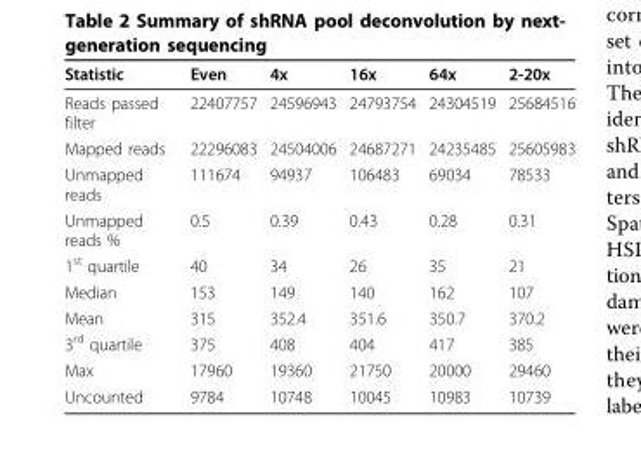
<table><thead><tr><td>Statistic</td><td>Even</td><td>4x</td><td>16x</td><td>64x</td><td>2-20x</td></tr></thead><tbody><tr><td>Reads passed filter</td><td>22407757</td><td>24596943</td><td>24793754</td><td>24304519</td><td>25684516</td></tr><tr><td>Mapped reads</td><td>22296083</td><td>24504006</td><td>24687271</td><td>24235485</td><td>25605983</td></tr><tr><td>Unmapped reads</td><td>111674</td><td>94937</td><td>106483</td><td>69034</td><td>78533</td></tr><tr><td>Unmapped reads %</td><td>0.5</td><td>0.39</td><td>0.43</td><td>0.28</td><td>0.31</td></tr><tr><td>1<sup>st</sup> quartile</td><td>40</td><td>34</td><td>26</td><td>35</td><td>21</td></tr><tr><td>Median</td><td>153</td><td>149</td><td>140</td><td>162</td><td>107</td></tr><tr><td>Mean</td><td>315</td><td>352.4</td><td>351.6</td><td>350.7</td><td>370.2</td></tr><tr><td>3<sup>rd</sup> quartile</td><td>375</td><td>408</td><td>404</td><td>417</td><td>385</td></tr><tr><td>Max</td><td>17960</td><td>19360</td><td>21750</td><td>20000</td><td>29460</td></tr><tr><td>Uncounted</td><td>9784</td><td>10748</td><td>10045</td><td>10983</td><td>10739</td></tr></tbody></table>